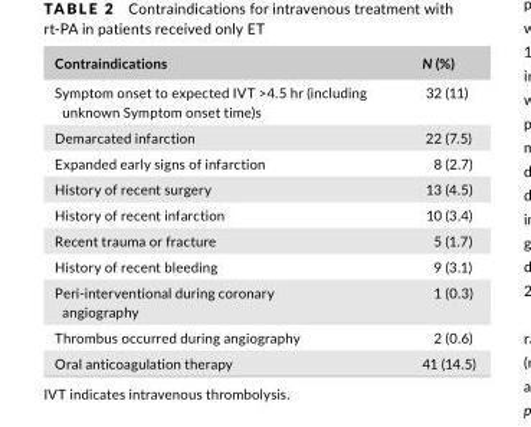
<table><thead><tr><td>Contraindications</td><td>N (%)</td></tr></thead><tbody><tr><td>Symptom onset to expected IVT &gt;4.5 hr (including unknown Symptom onset time)s</td><td>32 (11)</td></tr><tr><td>Demarcated infarction</td><td>22 (7.5)</td></tr><tr><td>Expanded early signs of infarction</td><td>8 (2.7)</td></tr><tr><td>History of recent surgery</td><td>13 (4.5)</td></tr><tr><td>History of recent infarction</td><td>10 (3.4)</td></tr><tr><td>Recent trauma or fracture</td><td>5 (1.7)</td></tr><tr><td>History of recent bleeding</td><td>9 (3.1)</td></tr><tr><td>Peri- interventional during coronary angiography</td><td>1 (0.3)</td></tr><tr><td>Thrombus occurred during angiography</td><td>2 (0.6)</td></tr><tr><td>Oral anticoagulation therapy</td><td>41 (14.5)</td></tr></tbody></table>